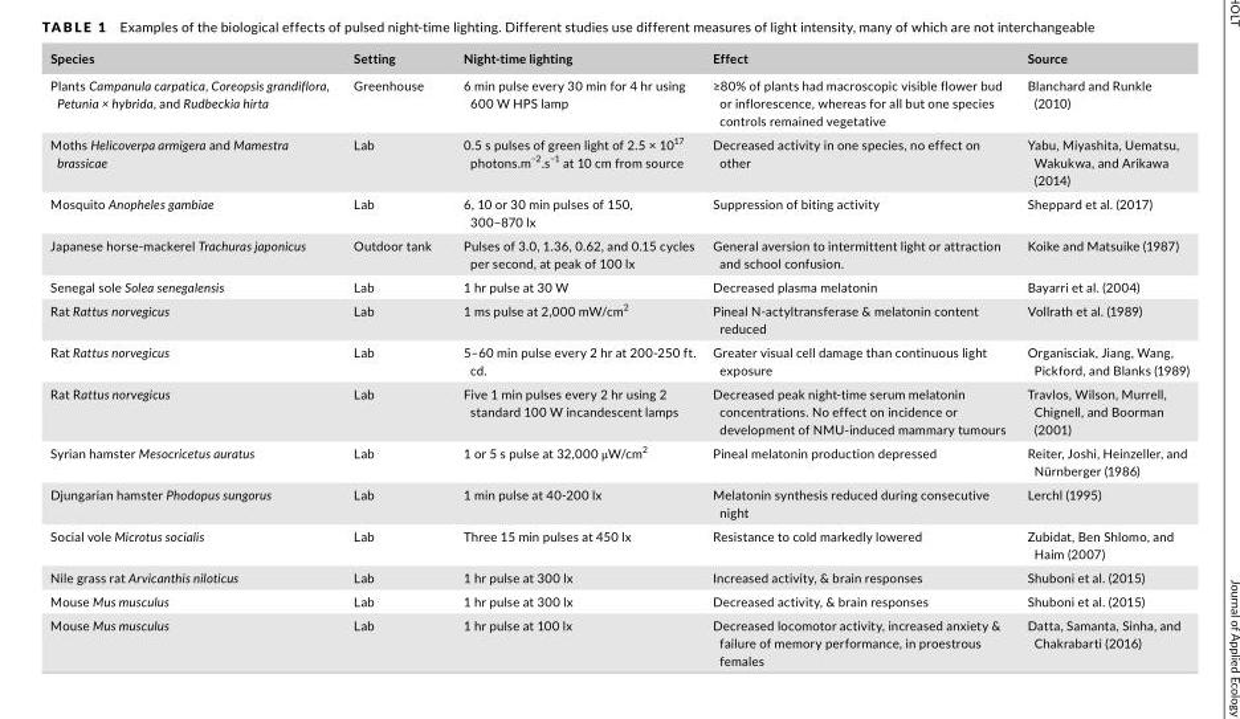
<table><thead><tr><td>Species</td><td>Setting</td><td>Night- time lighting</td><td>Effect</td><td>Source</td></tr></thead><tbody><tr><td>Plants Campanula carpatica, Coreopsis grandiflora, Petunia × hybrida, and Rudbeckia hirta</td><td>Greenhouse</td><td>6 min pulse every 30 min for 4 hr using 600 W HPS lamp</td><td>≥80% of plants had macroscopic visible flower bud or inflorescence, whereas for all but one species controls remained vegetative</td><td>Blanchard and Runkle (2010)</td></tr><tr><td>Moths Helicoverpa armigera and Mamestra brassicae</td><td>Lab</td><td>0.5 s pulses of green light of 2.5 × 10<sup>17</sup> photons.m<sup>−2</sup>.s<sup>−1</sup> at 10 cm from source</td><td>Decreased activity in one species, no effect on other</td><td>Yabu, Miyashita, Uematsu, Wakukwa, and Arikawa (2014)</td></tr><tr><td>Mosquito Anopheles gambiae</td><td>Lab</td><td>6, 10 or 30 min pulses of 150, 300–870 lx</td><td>Suppression of biting activity</td><td>Sheppard et al. (2017)</td></tr><tr><td>Japanese horse- mackerel Trachuras japonicus</td><td>Outdoor tank</td><td>Pulses of 3.0, 1.36, 0.62, and 0.15 cycles per second, at peak of 100 lx</td><td>General aversion to intermittent light or attraction and school confusion.</td><td>Koike and Matsuike (1987)</td></tr><tr><td>Senegal sole Solea senegalensis</td><td>Lab</td><td>1 hr pulse at 30 W</td><td>Decreased plasma melatonin</td><td>Bayarri et al. (2004)</td></tr><tr><td>Rat Rattus norvegicus</td><td>Lab</td><td>1 ms pulse at 2,000 mW/cm<sup>2</sup></td><td>Pineal N- actyltransferase &amp; melatonin content reduced</td><td>Vollrath et al. (1989)</td></tr><tr><td>Rat Rattus norvegicus</td><td>Lab</td><td>5–60 min pulse every 2 hr at 200- 250 ft. cd.</td><td>Greater visual cell damage than continuous light exposure</td><td>Organisciak, Jiang, Wang, Pickford, and Blanks (1989)</td></tr><tr><td>Rat Rattus norvegicus</td><td>Lab</td><td>Five 1 min pulses every 2 hr using 2 standard 100 W incandescent lamps</td><td>Decreased peak night- time serum melatonin concentrations. No effect on incidence or development of NMU- induced mammary tumours</td><td>Travlos, Wilson, Murrell, Chignell, and Boorman (2001)</td></tr><tr><td>Syrian hamster Mesocricetus auratus</td><td>Lab</td><td>1 or 5 s pulse at 32,000 μW/cm<sup>2</sup></td><td>Pineal melatonin production depressed</td><td>Reiter, Joshi, Heinzeller, and Nürnberger (1986)</td></tr><tr><td>Djungarian hamster Phodopus sungorus</td><td>Lab</td><td>1 min pulse at 40- 200 lx</td><td>Melatonin synthesis reduced during consecutive night</td><td>Lerchl (1995)</td></tr><tr><td>Social vole Microtus socialis</td><td>Lab</td><td>Three 15 min pulses at 450 lx</td><td>Resistance to cold markedly lowered</td><td>Zubidat, Ben Shlomo, and Haim (2007)</td></tr><tr><td>Nile grass rat Arvicanthis niloticus</td><td>Lab</td><td>1 hr pulse at 300 lx</td><td>Increased activity, &amp; brain responses</td><td>Shuboni et al. (2015)</td></tr><tr><td>Mouse Mus musculus</td><td>Lab</td><td>1 hr pulse at 300 lx</td><td>Decreased activity, &amp; brain responses</td><td>Shuboni et al. (2015)</td></tr><tr><td>Mouse Mus musculus</td><td>Lab</td><td>1 hr pulse at 100 lx</td><td>Decreased locomotor activity, increased anxiety &amp; failure of memory performance, in proestrous females</td><td>Datta, Samanta, Sinha, and Chakrabarti (2016)</td></tr></tbody></table>